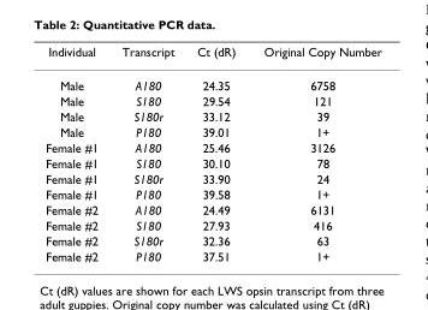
<table><thead><tr><td>Individual</td><td>Transcript</td><td>Ct (dR)</td><td>Original Copy Number</td></tr></thead><tbody><tr><td>Male</td><td>A180</td><td>24.35</td><td>6758</td></tr><tr><td>Male</td><td>S180</td><td>29.54</td><td>121</td></tr><tr><td>Male</td><td>S180r</td><td>33.12</td><td>39</td></tr><tr><td>Male</td><td>P180</td><td>39.01</td><td>1+</td></tr><tr><td>Female #1</td><td>A180</td><td>25.46</td><td>3126</td></tr><tr><td>Female #1</td><td>S180</td><td>30.10</td><td>78</td></tr><tr><td>Female #1</td><td>S180r</td><td>33.90</td><td>24</td></tr><tr><td>Female #1</td><td>P180</td><td>39.58</td><td>1+</td></tr><tr><td>Female #2</td><td>A180</td><td>24.49</td><td>6131</td></tr><tr><td>Female #2</td><td>S180</td><td>27.93</td><td>416</td></tr><tr><td>Female #2</td><td>S180r</td><td>32.36</td><td>63</td></tr><tr><td>Female #2</td><td>P180</td><td>37.51</td><td>1+</td></tr></tbody></table>